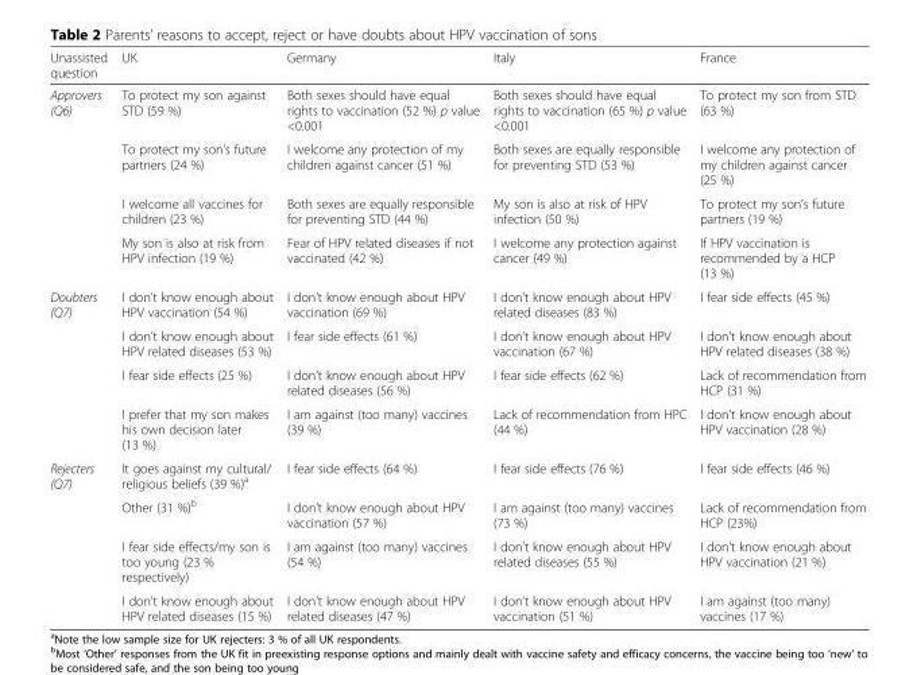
<table><thead><tr><td>Unassisted question</td><td>UK</td><td>Germany</td><td>Italy</td><td>France</td></tr></thead><tbody><tr><td rowspan="4">Approvers (Q6)</td><td>To protect my son against STD (59 %)</td><td>Both sexes should have equal rights to vaccination (52 %) p value &lt;0.001</td><td>Both sexes should have equal rights to vaccination (65 %) p value &lt;0.001</td><td>To protect my son from STD (63 %)</td></tr><tr><td>To protect my son’s future partners (24 %)</td><td>I welcome any protection of my children against cancer (51 %)</td><td>Both sexes are equally responsible for preventing STD (53 %)</td><td>I welcome any protection of my children against cancer (25 %)</td></tr><tr><td>I welcome all vaccines for children (23 %)</td><td>Both sexes are equally responsible for preventing STD (44 %)</td><td>My son is also at risk of HPV infection (50 %)</td><td>To protect my son’s future partners (19 %)</td></tr><tr><td>My son is also at risk from HPV infection (19 %)</td><td>Fear of HPV related diseases if not vaccinated (42 %)</td><td>I welcome any protection against cancer (49 %)</td><td>If HPV vaccination is recommended by a HCP (13 %)</td></tr><tr><td rowspan="4">Doubters (Q7)</td><td>I don’t know enough about HPV vaccination (54 %)</td><td>I don’t know enough about HPV vaccination (69 %)</td><td>I don’t know enough about HPV related diseases (83 %)</td><td>I fear side effects (45 %)</td></tr><tr><td>I don’t know enough about HPV related diseases (53 %)</td><td>I fear side effects (61 %)</td><td>I don’t know enough about HPV vaccination (67 %)</td><td>I don’t know enough about HPV related diseases (38 %)</td></tr><tr><td>I fear side effects (25 %)</td><td>I don’t know enough about HPV related diseases (56 %)</td><td>I fear side effects (62 %)</td><td>Lack of recommendation from HCP (31 %)</td></tr><tr><td>I prefer that my son makes his own decision later (13 %)</td><td>I am against (too many) vaccines (39 %)</td><td>Lack of recommendation from HPC (44 %)</td><td>I don’t know enough about HPV vaccination (28 %)</td></tr><tr><td rowspan="4">Rejecters (Q7)</td><td>It goes against my cultural/ religious beliefs (39 %)<sup>a</sup></td><td>I fear side effects (64 %)</td><td>I fear side effects (76 %)</td><td>I fear side effects (46 %)</td></tr><tr><td>Other (31 %)<sup>b</sup></td><td>I don’t know enough about HPV vaccination (57 %)</td><td>I am against (too many) vaccines (73 %)</td><td>Lack of recommendation from HCP (23%)</td></tr><tr><td>I fear side effects/my son is too young (23 % respectively)</td><td>I am against (too many) vaccines (54 %)</td><td>I don’t know enough about HPV related diseases (55 %)</td><td>I don’t know enough about HPV vaccination (21 %)</td></tr><tr><td>I don’t know enough about HPV related diseases (15 %)</td><td>I don’t know enough about HPV related diseases (47 %)</td><td>I don’t know enough about HPV vaccination (51 %)</td><td>I am against (too many) vaccines (17 %)</td></tr></tbody></table>